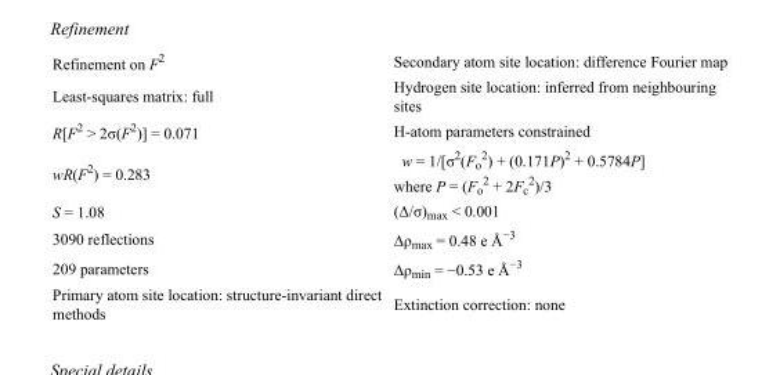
<table><tbody><tr><td>Refinement on F<sup>2</sup></td><td>Secondary atom site location: difference Fourier map</td></tr><tr><td>Least-squares matrix: full</td><td>Hydrogen site location: inferred from neighbouring sites</td></tr><tr><td>R[F<sup>2</sup> &gt; 2σ(F<sup>2</sup>)] = 0.071</td><td>H-atom parameters constrained</td></tr><tr><td>wR(F<sup>2</sup>) = 0.283</td><td>w = 1/[σ<sup>2</sup>(F<sub>o</sub> <sup>2</sup>) + (0.171P)<sup>2</sup> + 0.5784P] where P = (F<sub>o</sub> <sup>2</sup> + 2F<sub>c</sub> <sup>2</sup>)/3</td></tr><tr><td>S = 1.08</td><td>(Δ/σ)<sub>max</sub> &lt; 0.001</td></tr><tr><td>3090 reflections</td><td>Δρ<sub>max</sub> = 0.48 e Å<sup>−3</sup></td></tr><tr><td>209 parameters</td><td>Δρ<sub>min</sub> = −0.53 e Å<sup>−3</sup></td></tr><tr><td>Primary atom site location: structure-invariant direct methods</td><td>Extinction correction: none</td></tr></tbody></table>